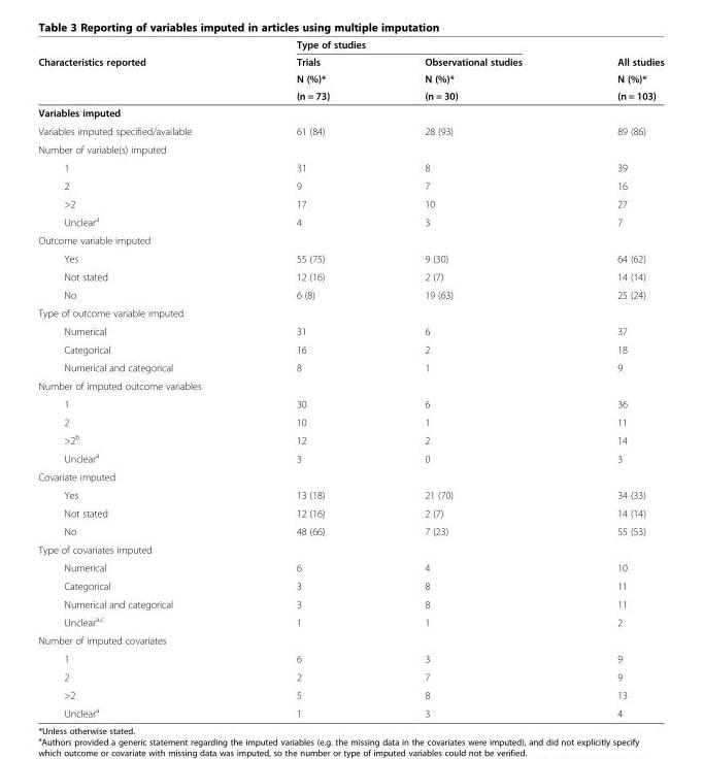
<table><thead><tr><td rowspan="4">Characteristics reported</td><td colspan="2">Type of studies</td><td rowspan="4">All studies N (%)* (n = 103)</td></tr><tr><td rowspan="3">Trials N (%)* (n = 73)</td><td rowspan="3">Observational studies N (%)* (n = 30)</td></tr><tr></tr><tr></tr></thead><tbody><tr><td colspan="4">Variables imputed</td></tr><tr><td>Variables imputed specified/available</td><td>61 (84)</td><td>28 (93)</td><td>89 (86)</td></tr><tr><td colspan="4">Number of variable(s) imputed</td></tr><tr><td>1</td><td>31</td><td>8</td><td>39</td></tr><tr><td>2</td><td>9</td><td>7</td><td>16</td></tr><tr><td>&gt;2</td><td>17</td><td>10</td><td>27</td></tr><tr><td>Unclear<sup>a</sup></td><td>4</td><td>3</td><td>7</td></tr><tr><td colspan="4">Outcome variable imputed</td></tr><tr><td>Yes</td><td>55 (75)</td><td>9 (30)</td><td>64 (62)</td></tr><tr><td>Not stated</td><td>12 (16)</td><td>2 (7)</td><td>14 (14)</td></tr><tr><td>No</td><td>6 (8)</td><td>19 (63)</td><td>25 (24)</td></tr><tr><td colspan="4">Type of outcome variable imputed</td></tr><tr><td>Numerical</td><td>31</td><td>6</td><td>37</td></tr><tr><td>Categorical</td><td>16</td><td>2</td><td>18</td></tr><tr><td>Numerical and categorical</td><td>8</td><td>1</td><td>9</td></tr><tr><td colspan="4">Number of imputed outcome variables</td></tr><tr><td>1</td><td>30</td><td>6</td><td>36</td></tr><tr><td>2</td><td>10</td><td>1</td><td>11</td></tr><tr><td>&gt;2<sup>b</sup></td><td>12</td><td>2</td><td>14</td></tr><tr><td>Unclear<sup>a</sup></td><td>3</td><td>0</td><td>3</td></tr><tr><td colspan="4">Covariate imputed</td></tr><tr><td>Yes</td><td>13 (18)</td><td>21 (70)</td><td>34 (33)</td></tr><tr><td>Not stated</td><td>12 (16)</td><td>2 (7)</td><td>14 (14)</td></tr><tr><td>No</td><td>48 (66)</td><td>7 (23)</td><td>55 (53)</td></tr><tr><td colspan="4">Type of covariates imputed</td></tr><tr><td>Numerical</td><td>6</td><td>4</td><td>10</td></tr><tr><td>Categorical</td><td>3</td><td>8</td><td>11</td></tr><tr><td>Numerical and categorical</td><td>3</td><td>8</td><td>11</td></tr><tr><td>Unclear<sup>a,c</sup></td><td>1</td><td>1</td><td>2</td></tr><tr><td colspan="4">Number of imputed covariates</td></tr><tr><td>1</td><td>6</td><td>3</td><td>9</td></tr><tr><td>2</td><td>2</td><td>7</td><td>9</td></tr><tr><td>&gt;2</td><td>5</td><td>8</td><td>13</td></tr><tr><td>Unclear<sup>a</sup></td><td>1</td><td>3</td><td>4</td></tr></tbody></table>